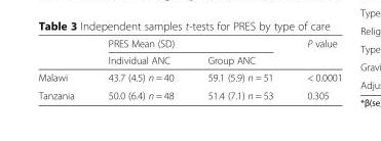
<table><thead><tr><td rowspan="2"></td><td colspan="2">PRES Mean (SD)</td><td rowspan="2">P value</td></tr><tr><td>Individual ANC</td><td>Group ANC</td></tr></thead><tbody><tr><td>Malawi</td><td>43.7 (4.5) n = 40</td><td>59.1 (5.9) n = 51</td><td>&lt; 0.0001</td></tr><tr><td>Tanzania</td><td>50.0 (6.4) n = 48</td><td>51.4 (7.1) n = 53</td><td>0.305</td></tr></tbody></table>